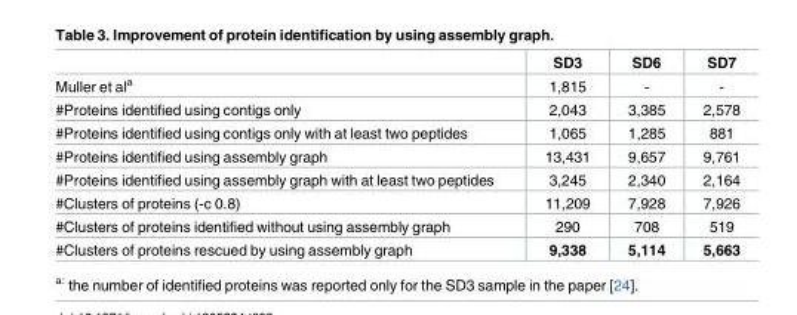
<table><thead><tr><td></td><td>SD3</td><td>SD6</td><td>SD7</td></tr></thead><tbody><tr><td>Muller et al<sup>a</sup></td><td>1,815</td><td>-</td><td>-</td></tr><tr><td>#Proteins identified using contigs only</td><td>2,043</td><td>3,385</td><td>2,578</td></tr><tr><td>#Proteins identified using contigs only with at least two peptides</td><td>1,065</td><td>1,285</td><td>881</td></tr><tr><td>#Proteins identified using assembly graph</td><td>13,431</td><td>9,657</td><td>9,761</td></tr><tr><td>#Proteins identified using assembly graph with at least two peptides</td><td>3,245</td><td>2,340</td><td>2,164</td></tr><tr><td>#Clusters of proteins (-c 0.8)</td><td>11,209</td><td>7,928</td><td>7,926</td></tr><tr><td>#Clusters of proteins identified without using assembly graph</td><td>290</td><td>708</td><td>519</td></tr><tr><td>#Clusters of proteins rescued by using assembly graph</td><td>9,338</td><td>5,114</td><td>5,663</td></tr></tbody></table>